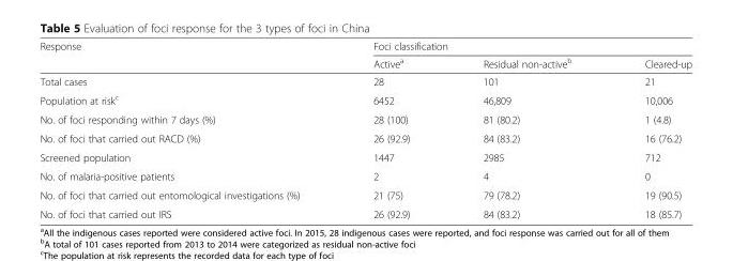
<table><thead><tr><td rowspan="2">Response</td><td colspan="3">Foci classification</td></tr><tr><td>Active<sup>a</sup></td><td>Residual non-active<sup>b</sup></td><td>Cleared-up</td></tr></thead><tbody><tr><td>Total cases</td><td>28</td><td>101</td><td>21</td></tr><tr><td>Population at risk<sup>c</sup></td><td>6452</td><td>46,809</td><td>10,006</td></tr><tr><td>No. of foci responding within 7 days (%)</td><td>28 (100)</td><td>81 (80.2)</td><td>1 (4.8)</td></tr><tr><td>No. of foci that carried out RACD (%)</td><td>26 (92.9)</td><td>84 (83.2)</td><td>16 (76.2)</td></tr><tr><td>Screened population</td><td>1447</td><td>2985</td><td>712</td></tr><tr><td>No. of malaria-positive patients</td><td>2</td><td>4</td><td>0</td></tr><tr><td>No. of foci that carried out entomological investigations (%)</td><td>21 (75)</td><td>79 (78.2)</td><td>19 (90.5)</td></tr><tr><td>No. of foci that carried out IRS</td><td>26 (92.9)</td><td>84 (83.2)</td><td>18 (85.7)</td></tr></tbody></table>